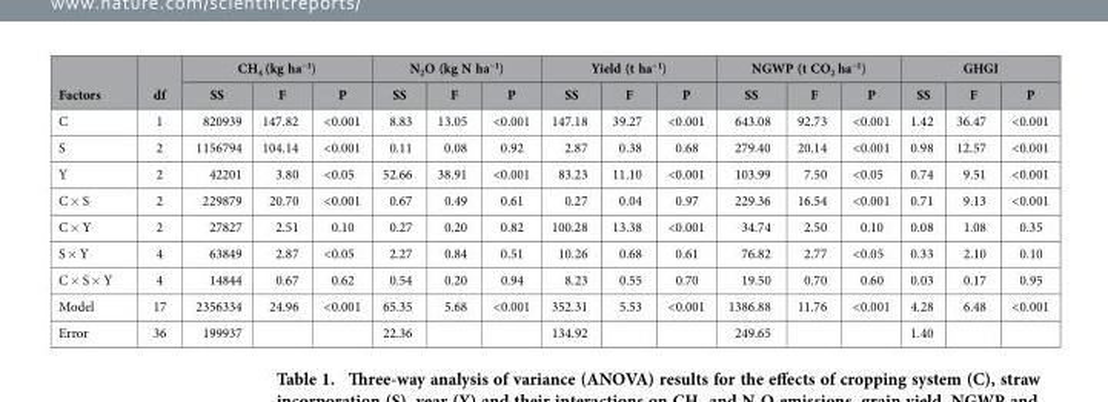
<table><thead><tr><td rowspan="2">Factors</td><td rowspan="2">df</td><td colspan="3">CH<sub>4</sub> (kg ha<sup>−1</sup>)</td><td colspan="3">N<sub>2</sub>O (kg N ha<sup>−1</sup>)</td><td colspan="3">Yield (t ha<sup>−1</sup>)</td><td colspan="3">NGWP (t CO<sub>2</sub> ha<sup>−1</sup>)</td><td colspan="3">GHGI</td></tr><tr><td>SS</td><td>F</td><td>P</td><td>SS</td><td>F</td><td>P</td><td>SS</td><td>F</td><td>P</td><td>SS</td><td>F</td><td>P</td><td>SS</td><td>F</td><td>P</td></tr></thead><tbody><tr><td>C</td><td>1</td><td>820939</td><td>147.82</td><td>﹤0.001</td><td>8.83</td><td>13.05</td><td>﹤0.001</td><td>147.18</td><td>39.27</td><td>﹤0.001</td><td>643.08</td><td>92.73</td><td>﹤0.001</td><td>1.42</td><td>36.47</td><td>﹤0.001</td></tr><tr><td>S</td><td>2</td><td>1156794</td><td>104.14</td><td>﹤0.001</td><td>0.11</td><td>0.08</td><td>0.92</td><td>2.87</td><td>0.38</td><td>0.68</td><td>279.40</td><td>20.14</td><td>﹤0.001</td><td>0.98</td><td>12.57</td><td>﹤0.001</td></tr><tr><td>Y</td><td>2</td><td>42201</td><td>3.80</td><td>﹤0.05</td><td>52.66</td><td>38.91</td><td>﹤0.001</td><td>83.23</td><td>11.10</td><td>﹤0.001</td><td>103.99</td><td>7.50</td><td>﹤0.05</td><td>0.74</td><td>9.51</td><td>﹤0.001</td></tr><tr><td>C × S</td><td>2</td><td>229879</td><td>20.70</td><td>﹤0.001</td><td>0.67</td><td>0.49</td><td>0.61</td><td>0.27</td><td>0.04</td><td>0.97</td><td>229.36</td><td>16.54</td><td>﹤0.001</td><td>0.71</td><td>9.13</td><td>﹤0.001</td></tr><tr><td>C × Y</td><td>2</td><td>27827</td><td>2.51</td><td>0.10</td><td>0.27</td><td>0.20</td><td>0.82</td><td>100.28</td><td>13.38</td><td>﹤0.001</td><td>34.74</td><td>2.50</td><td>0.10</td><td>0.08</td><td>1.08</td><td>0.35</td></tr><tr><td>S × Y</td><td>4</td><td>63849</td><td>2.87</td><td>﹤0.05</td><td>2.27</td><td>0.84</td><td>0.51</td><td>10.26</td><td>0.68</td><td>0.61</td><td>76.82</td><td>2.77</td><td>﹤0.05</td><td>0.33</td><td>2.10</td><td>0.10</td></tr><tr><td>C × S × Y</td><td>4</td><td>14844</td><td>0.67</td><td>0.62</td><td>0.54</td><td>0.20</td><td>0.94</td><td>8.23</td><td>0.55</td><td>0.70</td><td>19.50</td><td>0.70</td><td>0.60</td><td>0.03</td><td>0.17</td><td>0.95</td></tr><tr><td>Model</td><td>17</td><td>2356334</td><td>24.96</td><td>﹤0.001</td><td>65.35</td><td>5.68</td><td>﹤0.001</td><td>352.31</td><td>5.53</td><td>﹤0.001</td><td>1386.88</td><td>11.76</td><td>﹤0.001</td><td>4.28</td><td>6.48</td><td>﹤0.001</td></tr><tr><td>Error</td><td>36</td><td>199937</td><td></td><td></td><td>22.36</td><td></td><td></td><td>134.92</td><td></td><td></td><td>249.65</td><td></td><td></td><td>1.40</td><td></td><td></td></tr></tbody></table>